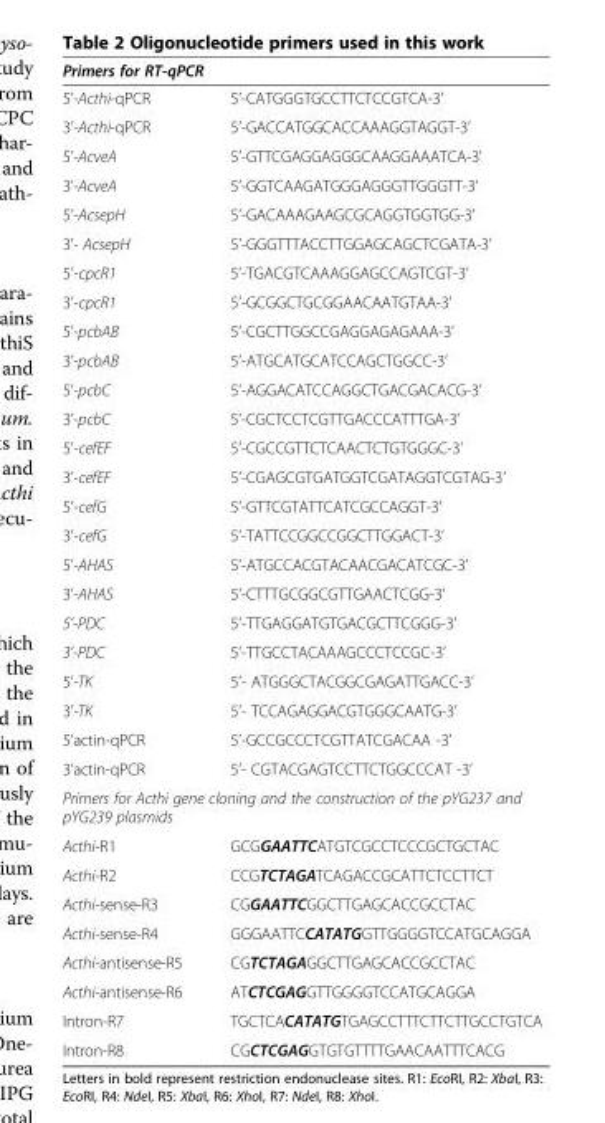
<table><thead><tr><td colspan="2">Primers for RT-qPCR</td></tr><tr><td>5’-Acthi-qPCR</td><td>5’-CATGGGTGCCTTCTCCGTCA-3’</td></tr></thead><tbody><tr><td>3’-Acthi-qPCR</td><td>5’-GACCATGGCACCAAAGGTAGGT-3’</td></tr><tr><td>5’-AcveA</td><td>5’-GTTCGAGGAGGGCAAGGAAATCA-3’</td></tr><tr><td>3’-AcveA</td><td>5’-GGTCAAGATGGGAGGGTTGGGTT-3’</td></tr><tr><td>5’-AcsepH</td><td>5’-GACAAAGAAGCGCAGGTGGTGG-3’</td></tr><tr><td>3’- AcsepH</td><td>5’-GGGTTTACCTTGGAGCAGCTCGATA-3’</td></tr><tr><td>5’-cpcR1</td><td>5’-TGACGTCAAAGGAGCCAGTCGT-3’</td></tr><tr><td>3’-cpcR1</td><td>5’-GCGGCTGCGGAACAATGTAA-3’</td></tr><tr><td>5’-pcbAB</td><td>5’-CGCTTGGCCGAGGAGAGAAA-3’</td></tr><tr><td>3’-pcbAB</td><td>5’-ATGCATGCATCCAGCTGGCC-3’</td></tr><tr><td>5’-pcbC</td><td>5’-AGGACATCCAGGCTGACGACACG-3’</td></tr><tr><td>3’-pcbC</td><td>5’-CGCTCCTCGTTGACCCATTTGA-3’</td></tr><tr><td>5’-cefEF</td><td>5’-CGCCGTTCTCAACTCTGTGGGC-3’</td></tr><tr><td>3’-cefEF</td><td>5’-CGAGCGTGATGGTCGATAGGTCGTAG-3’</td></tr><tr><td>5’-cefG</td><td>5’-GTTCGTATTCATCGCCAGGT-3’</td></tr><tr><td>3’-cefG</td><td>5’-TATTCCGGCCGGCTTGGACT-3’</td></tr><tr><td>5’-AHAS</td><td>5’-ATGCCACGTACAACGACATCGC-3’</td></tr><tr><td>3’-AHAS</td><td>5’-CTTTGCGGCGTTGAACTCGG-3’</td></tr><tr><td>5’-PDC</td><td>5’-TTGAGGATGTGACGCTTCGGG-3’</td></tr><tr><td>3’-PDC</td><td>5’-TTGCCTACAAAGCCCTCCGC-3’</td></tr><tr><td>5’-TK</td><td>5’- ATGGGCTACGGCGAGATTGACC-3’</td></tr><tr><td>3’-TK</td><td>5’- TCCAGAGGACGTGGGCAATG-3’</td></tr><tr><td>5’actin-qPCR</td><td>5’-GCCGCCCTCGTTATCGACAA -3’</td></tr><tr><td>3’actin-qPCR</td><td>5’- CGTACGAGTCCTTCTGGCCCAT -3’</td></tr><tr><td colspan="2">Primers for Acthi gene cloning and the construction of the pYG237 and pYG239 plasmids</td></tr><tr><td>Acthi-R1</td><td>GCGGAATTCATGTCGCCTCCCGCTGCTAC</td></tr><tr><td>Acthi-R2</td><td>CCGTCTAGATCAGACCGCATTCTCCTTCT</td></tr><tr><td>Acthi-sense-R3</td><td>CGGAATTCGGCTTGAGCACCGCCTAC</td></tr><tr><td>Acthi-sense-R4</td><td>GGGAATTCCATATGGTTGGGGTCCATGCAGGA</td></tr><tr><td>Acthi-antisense-R5</td><td>CGTCTAGAGGCTTGAGCACCGCCTAC</td></tr><tr><td>Acthi-antisense-R6</td><td>ATCTCGAGGTTGGGGTCCATGCAGGA</td></tr><tr><td>Intron-R7</td><td>TGCTCACATATGTGAGCCTTTCTTCTTGCCTGTCA</td></tr><tr><td>Intron-R8</td><td>CGCTCGAGGTGTGTTTTGAACAATTTCACG</td></tr></tbody></table>